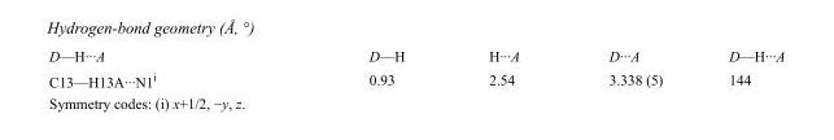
<table><tbody><tr><td>D—H···A</td><td>D—H</td><td>H···A</td><td>D···A</td><td>D—H···A</td></tr><tr><td>C13—H13A···N1<sup>i</sup></td><td>0.93</td><td>2.54</td><td>3.338 (5)</td><td>144</td></tr></tbody></table>